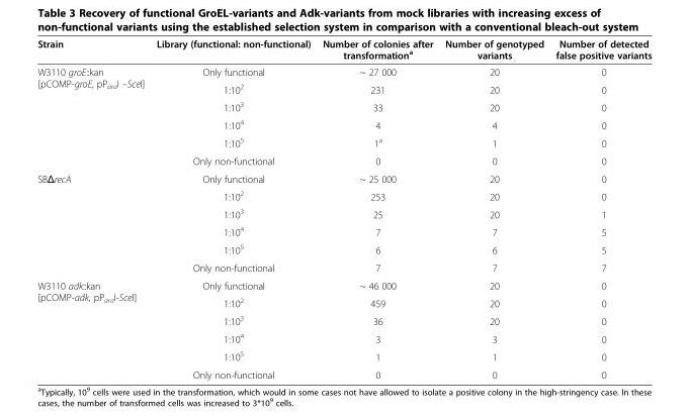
<table><thead><tr><td>Strain</td><td>Library (functional: non-functional)</td><td>Number of colonies after transformation<sup>a</sup></td><td>Number of genotyped variants</td><td>Number of detected false positive variants</td></tr></thead><tbody><tr><td rowspan="6">W3110 groE::kan [pCOMP-groE, pP<sub>ara</sub>I –SceI]</td><td>Only functional</td><td>~ 27 000</td><td>20</td><td>0</td></tr><tr><td>1:10<sup>2</sup></td><td>231</td><td>20</td><td>0</td></tr><tr><td>1:10<sup>3</sup></td><td>33</td><td>20</td><td>0</td></tr><tr><td>1:10<sup>4</sup></td><td>4</td><td>4</td><td>0</td></tr><tr><td>1:10<sup>5</sup></td><td>1<sup>a</sup></td><td>1</td><td>0</td></tr><tr><td>Only non-functional</td><td>0</td><td>0</td><td>0</td></tr><tr><td rowspan="6">SBΔrecA</td><td>Only functional</td><td>~ 25 000</td><td>20</td><td>0</td></tr><tr><td>1:10<sup>2</sup></td><td>253</td><td>20</td><td>0</td></tr><tr><td>1:10<sup>3</sup></td><td>25</td><td>20</td><td>1</td></tr><tr><td>1:10<sup>4</sup></td><td>7</td><td>7</td><td>5</td></tr><tr><td>1:10<sup>5</sup></td><td>6</td><td>6</td><td>5</td></tr><tr><td>Only non-functional</td><td>7</td><td>7</td><td>7</td></tr><tr><td rowspan="6">W3110 adk::kan [pCOMP-adk, pP<sub>ara</sub>I-SceI]</td><td>Only functional</td><td>~ 46 000</td><td>20</td><td>0</td></tr><tr><td>1:10<sup>2</sup></td><td>459</td><td>20</td><td>0</td></tr><tr><td>1:10<sup>3</sup></td><td>36</td><td>20</td><td>0</td></tr><tr><td>1:10<sup>4</sup></td><td>3</td><td>3</td><td>0</td></tr><tr><td>1:10<sup>5</sup></td><td>1</td><td>1</td><td>0</td></tr><tr><td>Only non-functional</td><td>0</td><td>0</td><td>0</td></tr></tbody></table>